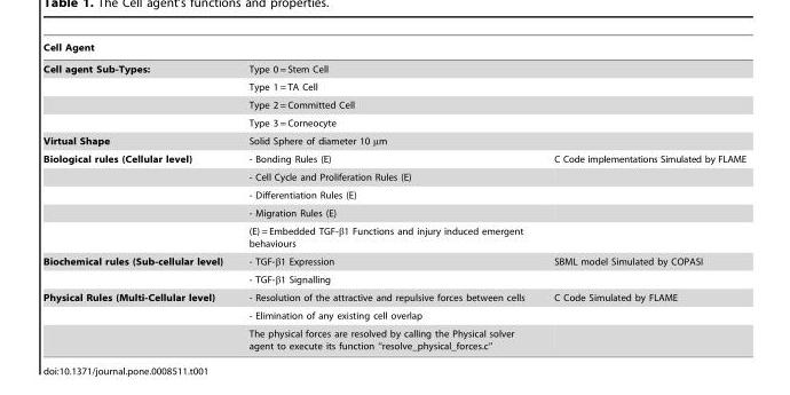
<table><thead><tr><td colspan="3">Cell Agent</td></tr></thead><tbody><tr><td rowspan="4">Cell agent Sub-Types:</td><td colspan="2">Type 0 = Stem Cell</td></tr><tr><td colspan="2">Type 1 = TA Cell</td></tr><tr><td colspan="2">Type 2 = Committed Cell</td></tr><tr><td colspan="2">Type 3 = Corneocyte</td></tr><tr><td>Virtual Shape</td><td colspan="2">Solid Sphere of diameter 10 µm</td></tr><tr><td rowspan="5">Biological rules (Cellular level)</td><td>- Bonding Rules (E)</td><td>C Code implementations Simulated by FLAME</td></tr><tr><td>- Cell Cycle and Proliferation Rules (E)</td><td></td></tr><tr><td>- Differentiation Rules (E)</td><td></td></tr><tr><td>- Migration Rules (E)</td><td></td></tr><tr><td>(E) = Embedded TGF-β1 Functions and injury induced emergent behaviours</td><td></td></tr><tr><td rowspan="2">Biochemical rules (Sub-cellular level)</td><td>- TGF-β1 Expression</td><td>SBML model Simulated by COPASI</td></tr><tr><td>- TGF-β1 Signalling</td><td></td></tr><tr><td rowspan="3">Physical Rules (Multi-Cellular level)</td><td>- Resolution of the attractive and repulsive forces between cells</td><td>C Code Simulated by FLAME</td></tr><tr><td>- Elimination of any existing cell overlap</td><td></td></tr><tr><td>The physical forces are resolved by calling the Physical solver agent to execute its function ‘‘resolve_physical_forces.c’’</td><td></td></tr></tbody></table>